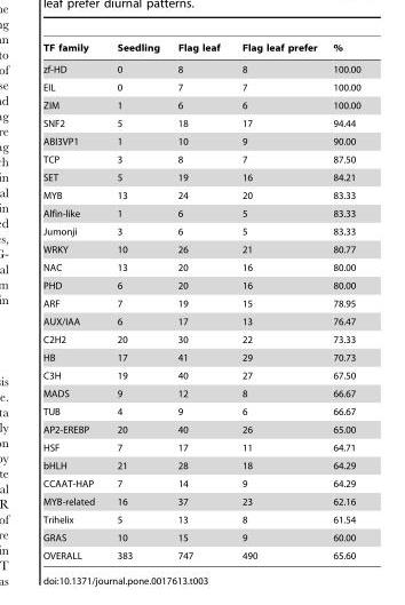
<table><thead><tr><td>TF family</td><td>Seedling</td><td>Flag leaf</td><td>Flag leaf prefer</td><td>%</td></tr></thead><tbody><tr><td>zf-HD</td><td>0</td><td>8</td><td>8</td><td>100.00</td></tr><tr><td>EIL</td><td>0</td><td>7</td><td>7</td><td>100.00</td></tr><tr><td>ZIM</td><td>1</td><td>6</td><td>6</td><td>100.00</td></tr><tr><td>SNF2</td><td>5</td><td>18</td><td>17</td><td>94.44</td></tr><tr><td>ABI3VP1</td><td>1</td><td>10</td><td>9</td><td>90.00</td></tr><tr><td>TCP</td><td>3</td><td>8</td><td>7</td><td>87.50</td></tr><tr><td>SET</td><td>5</td><td>19</td><td>16</td><td>84.21</td></tr><tr><td>MYB</td><td>13</td><td>24</td><td>20</td><td>83.33</td></tr><tr><td>Alfin-like</td><td>1</td><td>6</td><td>5</td><td>83.33</td></tr><tr><td>Jumonji</td><td>3</td><td>6</td><td>5</td><td>83.33</td></tr><tr><td>WRKY</td><td>10</td><td>26</td><td>21</td><td>80.77</td></tr><tr><td>NAC</td><td>13</td><td>20</td><td>16</td><td>80.00</td></tr><tr><td>PHD</td><td>6</td><td>20</td><td>16</td><td>80.00</td></tr><tr><td>ARF</td><td>7</td><td>19</td><td>15</td><td>78.95</td></tr><tr><td>AUX/IAA</td><td>6</td><td>17</td><td>13</td><td>76.47</td></tr><tr><td>C2H2</td><td>20</td><td>30</td><td>22</td><td>73.33</td></tr><tr><td>HB</td><td>17</td><td>41</td><td>29</td><td>70.73</td></tr><tr><td>C3H</td><td>19</td><td>40</td><td>27</td><td>67.50</td></tr><tr><td>MADS</td><td>9</td><td>12</td><td>8</td><td>66.67</td></tr><tr><td>TUB</td><td>4</td><td>9</td><td>6</td><td>66.67</td></tr><tr><td>AP2-EREBP</td><td>20</td><td>40</td><td>26</td><td>65.00</td></tr><tr><td>HSF</td><td>7</td><td>17</td><td>11</td><td>64.71</td></tr><tr><td>bHLH</td><td>21</td><td>28</td><td>18</td><td>64.29</td></tr><tr><td>CCAAT-HAP</td><td>7</td><td>14</td><td>9</td><td>64.29</td></tr><tr><td>MYB-related</td><td>16</td><td>37</td><td>23</td><td>62.16</td></tr><tr><td>Trihelix</td><td>5</td><td>13</td><td>8</td><td>61.54</td></tr><tr><td>GRAS</td><td>10</td><td>15</td><td>9</td><td>60.00</td></tr><tr><td>OVERALL</td><td>383</td><td>747</td><td>490</td><td>65.60</td></tr></tbody></table>